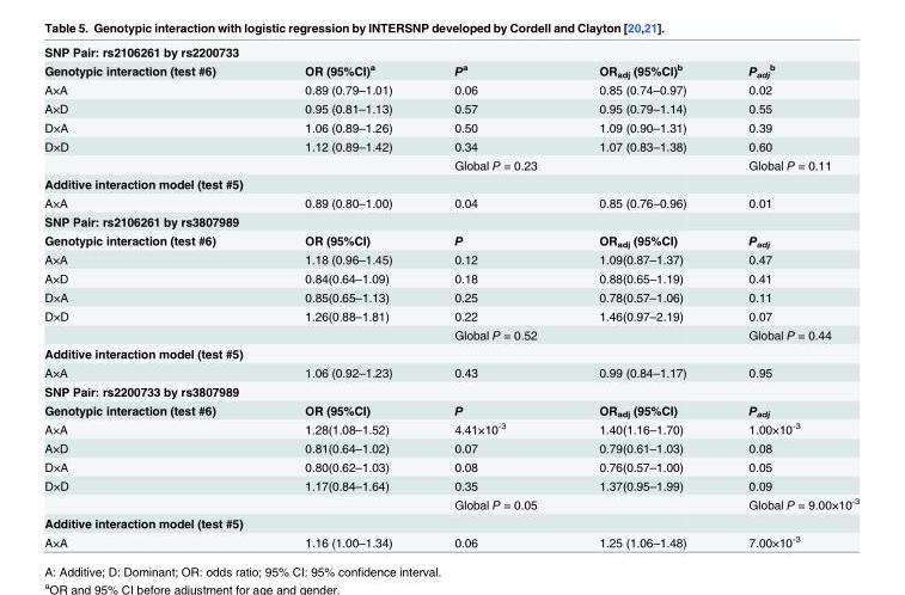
<table><tbody><tr><td colspan="5">SNP Pair: rs2106261 by rs2200733</td></tr><tr><td>Genotypic interaction (test #6)</td><td>OR (95%CI)<sup>a</sup></td><td>P<sup>a</sup></td><td>OR<sub>adj</sub> (95%CI)<sup>b</sup></td><td>P<sub>adj</sub> <sup>b</sup></td></tr><tr><td>A×A</td><td>0.89 (0.79–1.01)</td><td>0.06</td><td>0.85 (0.74–0.97)</td><td>0.02</td></tr><tr><td>A×D</td><td>0.95 (0.81–1.13)</td><td>0.57</td><td>0.95 (0.79–1.14)</td><td>0.55</td></tr><tr><td>D×A</td><td>1.06 (0.89–1.26)</td><td>0.50</td><td>1.09 (0.90–1.31)</td><td>0.39</td></tr><tr><td rowspan="2">D×D</td><td>1.12 (0.89–1.42)</td><td>0.34</td><td>1.07 (0.83–1.38)</td><td>0.60</td></tr><tr><td></td><td>Global P = 0.23</td><td></td><td>Global P = 0.11</td></tr><tr><td colspan="5">Additive interaction model (test #5)</td></tr><tr><td>A×A</td><td>0.89 (0.80–1.00)</td><td>0.04</td><td>0.85 (0.76–0.96)</td><td>0.01</td></tr><tr><td colspan="5">SNP Pair: rs2106261 by rs3807989</td></tr><tr><td>Genotypic interaction (test #6)</td><td>OR (95%CI)</td><td>P</td><td>OR<sub>adj</sub> (95%CI)</td><td>P<sub>adj</sub></td></tr><tr><td>A×A</td><td>1.18 (0.96–1.45)</td><td>0.12</td><td>1.09(0.87–1.37)</td><td>0.47</td></tr><tr><td>A×D</td><td>0.84(0.64–1.09)</td><td>0.18</td><td>0.88(0.65–1.19)</td><td>0.41</td></tr><tr><td>D×A</td><td>0.85(0.65–1.13)</td><td>0.25</td><td>0.78(0.57–1.06)</td><td>0.11</td></tr><tr><td rowspan="2">D×D</td><td>1.26(0.88–1.81)</td><td>0.22</td><td>1.46(0.97–2.19)</td><td>0.07</td></tr><tr><td></td><td>Global P = 0.52</td><td></td><td>Global P = 0.44</td></tr><tr><td colspan="5">Additive interaction model (test #5)</td></tr><tr><td>A×A</td><td>1.06 (0.92–1.23)</td><td>0.43</td><td>0.99 (0.84–1.17)</td><td>0.95</td></tr><tr><td colspan="5">SNP Pair: rs2200733 by rs3807989</td></tr><tr><td>Genotypic interaction (test #6)</td><td>OR (95%CI)</td><td>P</td><td>OR<sub>adj</sub> (95%CI)</td><td>P<sub>adj</sub></td></tr><tr><td>A×A</td><td>1.28(1.08–1.52)</td><td>4.41×10<sup>-3</sup></td><td>1.40(1.16–1.70)</td><td>1.00×10<sup>-3</sup></td></tr><tr><td>A×D</td><td>0.81(0.64–1.02)</td><td>0.07</td><td>0.79(0.61–1.03)</td><td>0.08</td></tr><tr><td>D×A</td><td>0.80(0.62–1.03)</td><td>0.08</td><td>0.76(0.57–1.00)</td><td>0.05</td></tr><tr><td rowspan="2">D×D</td><td>1.17(0.84–1.64)</td><td>0.35</td><td>1.37(0.95–1.99)</td><td>0.09</td></tr><tr><td></td><td>Global P = 0.05</td><td></td><td>Global P = 9.00×10<sup>-3</sup></td></tr><tr><td colspan="5">Additive interaction model (test #5)</td></tr><tr><td>A×A</td><td>1.16 (1.00–1.34)</td><td>0.06</td><td>1.25 (1.06–1.48)</td><td>7.00×10<sup>-3</sup></td></tr></tbody></table>